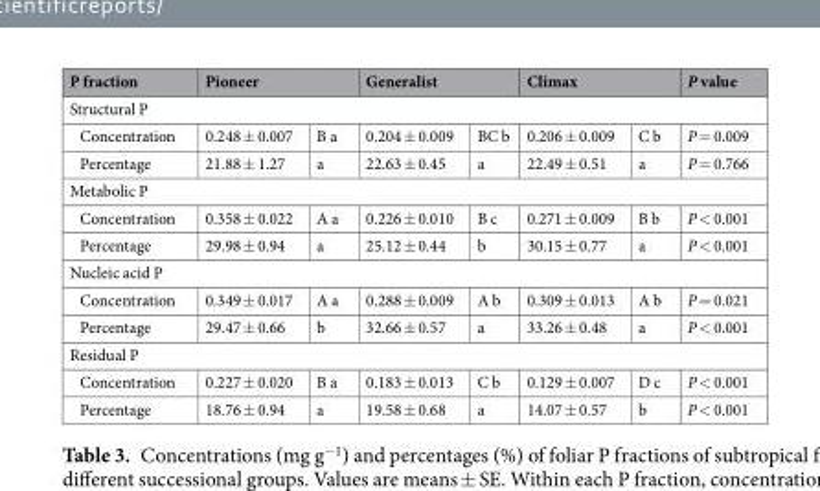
<table><thead><tr><td>P fraction</td><td colspan="2">Pioneer</td><td colspan="2">Generalist</td><td colspan="2">Climax</td><td>P value</td></tr><tr><td colspan="8">Structural P</td></tr><tr><td>Concentration</td><td>0.248 ± 0.007</td><td>B a</td><td>0.204 ± 0.009</td><td>BC b</td><td>0.206 ± 0.009</td><td>C b</td><td>P = 0.009</td></tr></thead><tbody><tr><td>Percentage</td><td>21.88 ± 1.27</td><td>a</td><td>22.63 ± 0.45</td><td>a</td><td>22.49 ± 0.51</td><td>a</td><td>P = 0.766</td></tr><tr><td colspan="8">Metabolic P</td></tr><tr><td>Concentration</td><td>0.358 ± 0.022</td><td>A a</td><td>0.226 ± 0.010</td><td>B c</td><td>0.271 ± 0.009</td><td>B b</td><td>P &lt; 0.001</td></tr><tr><td>Percentage</td><td>29.98 ± 0.94</td><td>a</td><td>25.12 ± 0.44</td><td>b</td><td>30.15 ± 0.77</td><td>a</td><td>P &lt; 0.001</td></tr><tr><td colspan="8">Nucleic acid P</td></tr><tr><td>Concentration</td><td>0.349 ± 0.017</td><td>A a</td><td>0.288 ± 0.009</td><td>A b</td><td>0.309 ± 0.013</td><td>A b</td><td>P = 0.021</td></tr><tr><td>Percentage</td><td>29.47 ± 0.66</td><td>b</td><td>32.66 ± 0.57</td><td>a</td><td>33.26 ± 0.48</td><td>a</td><td>P &lt; 0.001</td></tr><tr><td colspan="8">Residual P</td></tr><tr><td>Concentration</td><td>0.227 ± 0.020</td><td>B a</td><td>0.183 ± 0.013</td><td>C b</td><td>0.129 ± 0.007</td><td>D c</td><td>P &lt; 0.001</td></tr><tr><td>Percentage</td><td>18.76 ± 0.94</td><td>a</td><td>19.58 ± 0.68</td><td>a</td><td>14.07 ± 0.57</td><td>b</td><td>P &lt; 0.001</td></tr></tbody></table>